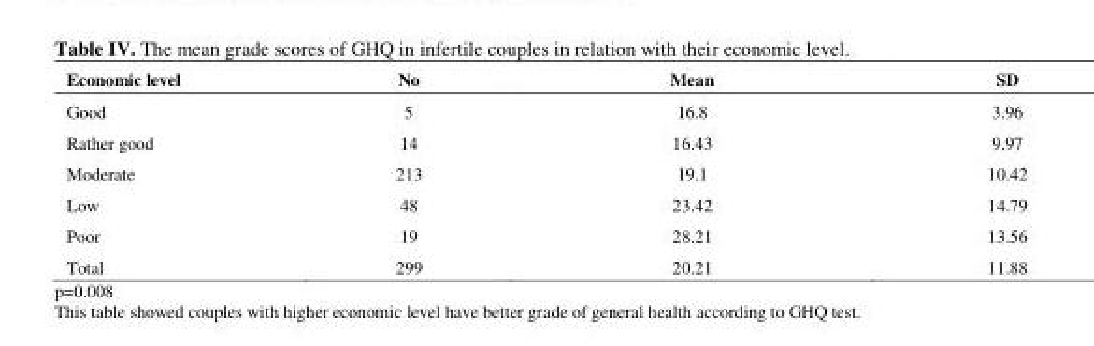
<table><thead><tr><td>Economic level</td><td>No</td><td>Mean</td><td>SD</td></tr></thead><tbody><tr><td>Good</td><td>5</td><td>16.8</td><td>3.96</td></tr><tr><td>Rather good</td><td>14</td><td>16.43</td><td>9.97</td></tr><tr><td>Moderate</td><td>213</td><td>19.1</td><td>10.42</td></tr><tr><td>Low</td><td>48</td><td>23.42</td><td>14.79</td></tr><tr><td>Poor</td><td>19</td><td>28.21</td><td>13.56</td></tr><tr><td>Total</td><td>299</td><td>20.21</td><td>11.88</td></tr></tbody></table>